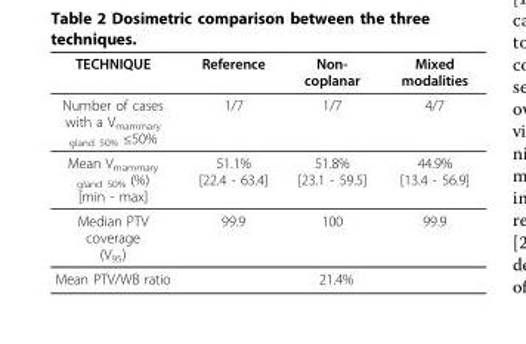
<table><thead><tr><td>TECHNIQUE</td><td>Reference</td><td>Non- coplanar</td><td>Mixed modalities</td></tr></thead><tbody><tr><td>Number of cases with a V<sub>mammary gland 50%</sub> ≤50%</td><td>1/7</td><td>1/7</td><td>4/7</td></tr><tr><td>Mean V<sub>mammary gland 50%</sub> (%) [min - max]</td><td>51.1% [22.4 - 63.4]</td><td>51.8% [23.1 - 59.5]</td><td>44.9% [13.4 - 56.9]</td></tr><tr><td>Median PTV coverage (V<sub>95</sub>)</td><td>99.9</td><td>100</td><td>99.9</td></tr><tr><td>Mean PTV/WB ratio</td><td colspan="3">21.4%</td></tr></tbody></table>